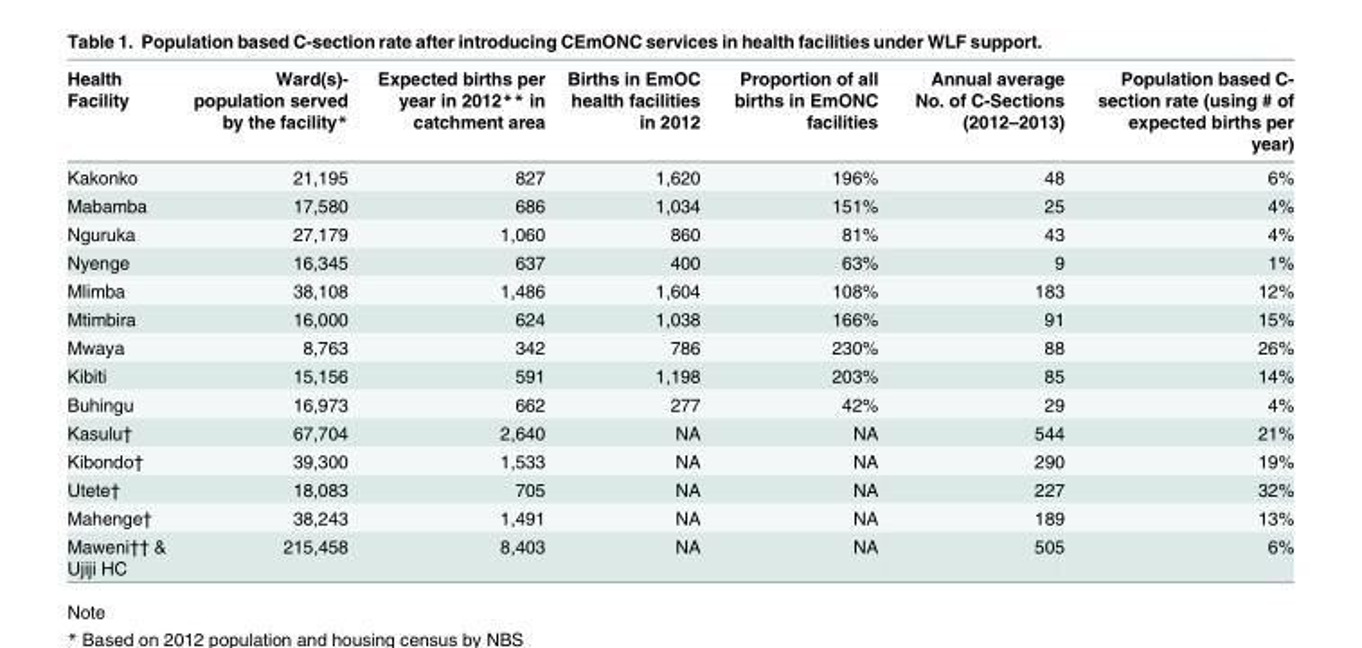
<table><thead><tr><td>Health Facility</td><td>Ward(s)- population served by the facility*</td><td>Expected births per year in 2012** in catchment area</td><td>Births in EmOC health facilities in 2012</td><td>Proportion of all births in EmONC facilities</td><td>Annual average No. of C-Sections (2012–2013)</td><td>Population based C- section rate (using # of expected births per year)</td></tr></thead><tbody><tr><td>Kakonko</td><td>21,195</td><td>827</td><td>1,620</td><td>196%</td><td>48</td><td>6%</td></tr><tr><td>Mabamba</td><td>17,580</td><td>686</td><td>1,034</td><td>151%</td><td>25</td><td>4%</td></tr><tr><td>Nguruka</td><td>27,179</td><td>1,060</td><td>860</td><td>81%</td><td>43</td><td>4%</td></tr><tr><td>Nyenge</td><td>16,345</td><td>637</td><td>400</td><td>63%</td><td>9</td><td>1%</td></tr><tr><td>Mlimba</td><td>38,108</td><td>1,486</td><td>1,604</td><td>108%</td><td>183</td><td>12%</td></tr><tr><td>Mtimbira</td><td>16,000</td><td>624</td><td>1,038</td><td>166%</td><td>91</td><td>15%</td></tr><tr><td>Mwaya</td><td>8,763</td><td>342</td><td>786</td><td>230%</td><td>88</td><td>26%</td></tr><tr><td>Kibiti</td><td>15,156</td><td>591</td><td>1,198</td><td>203%</td><td>85</td><td>14%</td></tr><tr><td>Buhingu</td><td>16,973</td><td>662</td><td>277</td><td>42%</td><td>29</td><td>4%</td></tr><tr><td>Kasulu†</td><td>67,704</td><td>2,640</td><td>NA</td><td>NA</td><td>544</td><td>21%</td></tr><tr><td>Kibondo†</td><td>39,300</td><td>1,533</td><td>NA</td><td>NA</td><td>290</td><td>19%</td></tr><tr><td>Utete†</td><td>18,083</td><td>705</td><td>NA</td><td>NA</td><td>227</td><td>32%</td></tr><tr><td>Mahenge†</td><td>38,243</td><td>1,491</td><td>NA</td><td>NA</td><td>189</td><td>13%</td></tr><tr><td>Maweni†† &amp; Ujiji HC</td><td>215,458</td><td>8,403</td><td>NA</td><td>NA</td><td>505</td><td>6%</td></tr></tbody></table>